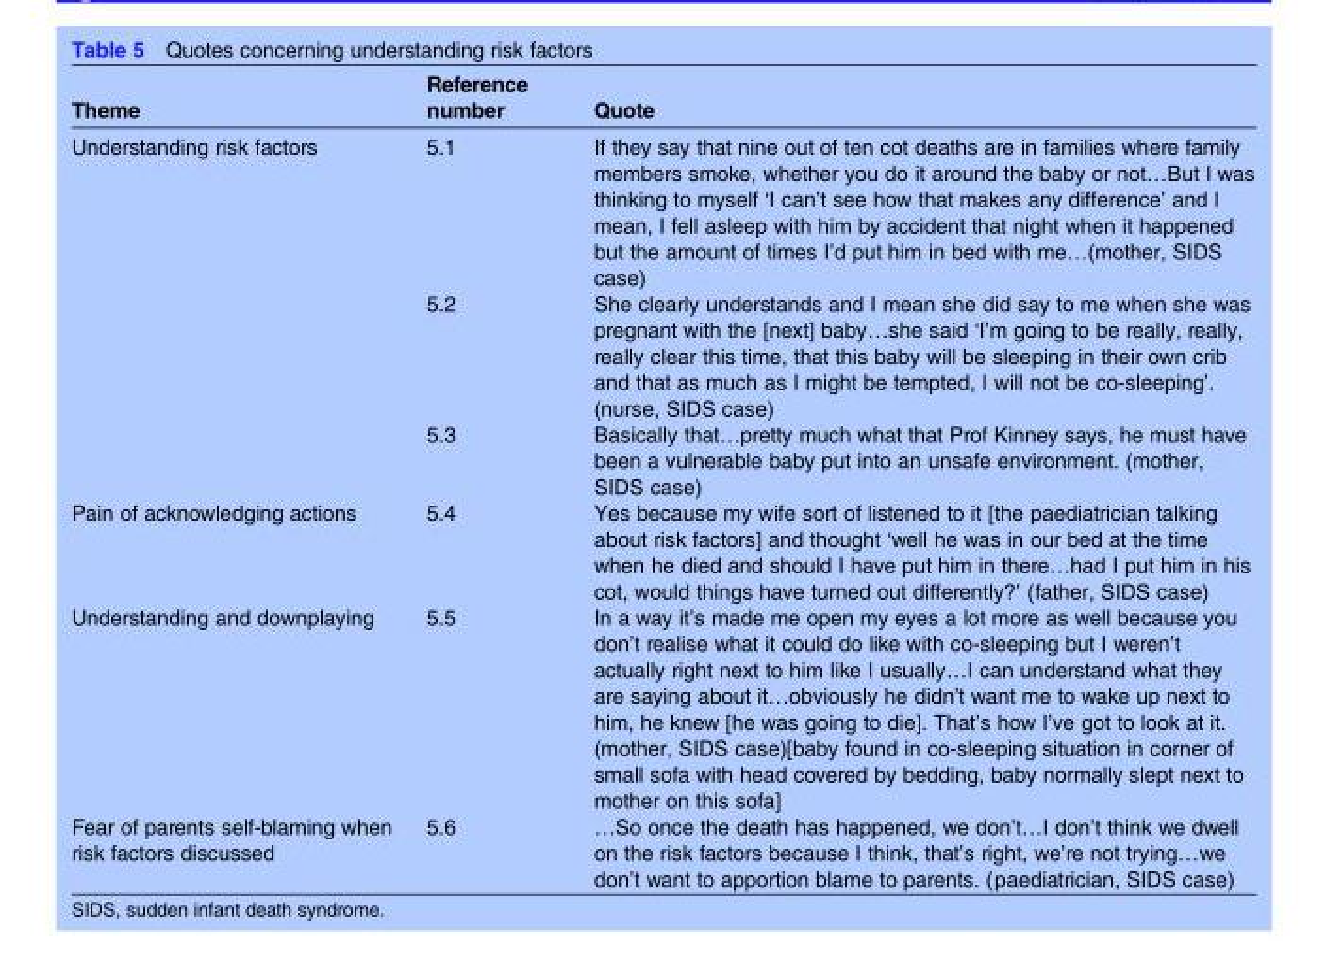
<table><thead><tr><td>Theme</td><td>Reference number</td><td>Quote</td></tr></thead><tbody><tr><td rowspan="3">Understanding risk factors</td><td>5.1</td><td>If they say that nine out of ten cot deaths are in families where family members smoke, whether you do it around the baby or not…But I was thinking to myself ‘I can’t see how that makes any difference’ and I mean, I fell asleep with him by accident that night when it happened but the amount of times I’d put him in bed with me…(mother, SIDS case)</td></tr><tr><td>5.2</td><td>She clearly understands and I mean she did say to me when she was pregnant with the [next] baby…she said ‘I’m going to be really, really, really clear this time, that this baby will be sleeping in their own crib and that as much as I might be tempted, I will not be co-sleeping’. (nurse, SIDS case)</td></tr><tr><td>5.3</td><td>Basically that…pretty much what that Prof Kinney says, he must have been a vulnerable baby put into an unsafe environment. (mother, SIDS case)</td></tr><tr><td>Pain of acknowledging actions</td><td>5.4</td><td>Yes because my wife sort of listened to it [the paediatrician talking about risk factors] and thought ‘well he was in our bed at the time when he died and should I have put him in there…had I put him in his cot, would things have turned out differently?’ (father, SIDS case)</td></tr><tr><td>Understanding and downplaying</td><td>5.5</td><td>In a way it’s made me open my eyes a lot more as well because you don’t realise what it could do like with co-sleeping but I weren’t actually right next to him like I usually…I can understand what they are saying about it…obviously he didn’t want me to wake up next to him, he knew [he was going to die]. That’s how I’ve got to look at it. (mother, SIDS case)[baby found in co-sleeping situation in corner of small sofa with head covered by bedding, baby normally slept next to mother on this sofa]</td></tr><tr><td>Fear of parents self-blaming when risk factors discussed</td><td>5.6</td><td>…So once the death has happened, we don’t…I don’t think we dwell on the risk factors because I think, that’s right, we’re not trying…we don’t want to apportion blame to parents. (paediatrician, SIDS case)</td></tr></tbody></table>